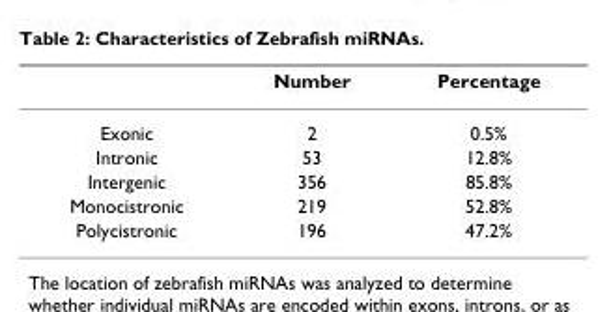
<table><thead><tr><td></td><td>Number</td><td>Percentage</td></tr></thead><tbody><tr><td>Exonic</td><td>2</td><td>0.5%</td></tr><tr><td>Intronic</td><td>53</td><td>12.8%</td></tr><tr><td>Intergenic</td><td>356</td><td>85.8%</td></tr><tr><td>Monocistronic</td><td>219</td><td>52.8%</td></tr><tr><td>Polycistronic</td><td>196</td><td>47.2%</td></tr></tbody></table>